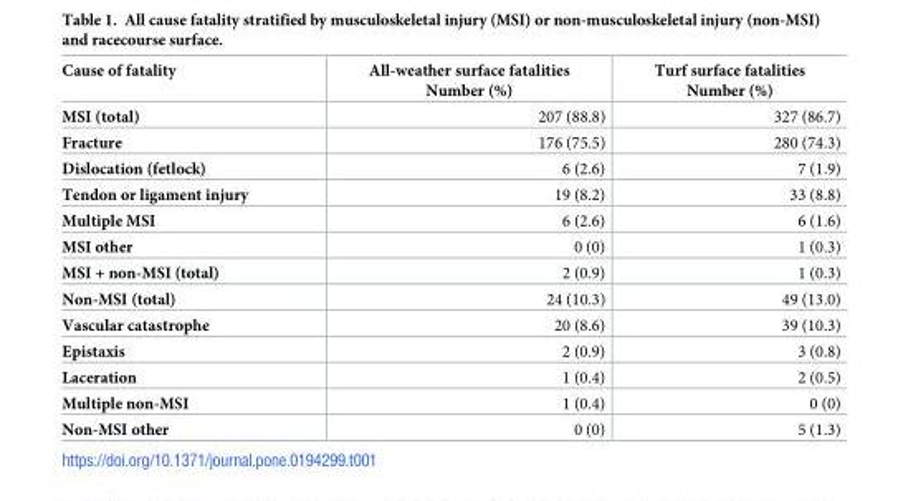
<table><thead><tr><td>Cause of fatality</td><td>All-weather surface fatalities Number (%)</td><td>Turf surface fatalities Number (%)</td></tr></thead><tbody><tr><td>MSI (total)</td><td>207 (88.8)</td><td>327 (86.7)</td></tr><tr><td>Fracture</td><td>176 (75.5)</td><td>280 (74.3)</td></tr><tr><td>Dislocation (fetlock)</td><td>6 (2.6)</td><td>7 (1.9)</td></tr><tr><td>Tendon or ligament injury</td><td>19 (8.2)</td><td>33 (8.8)</td></tr><tr><td>Multiple MSI</td><td>6 (2.6)</td><td>6 (1.6)</td></tr><tr><td>MSI other</td><td>0 (0)</td><td>1 (0.3)</td></tr><tr><td>MSI + non-MSI (total)</td><td>2 (0.9)</td><td>1 (0.3)</td></tr><tr><td>Non-MSI (total)</td><td>24 (10.3)</td><td>49 (13.0)</td></tr><tr><td>Vascular catastrophe</td><td>20 (8.6)</td><td>39 (10.3)</td></tr><tr><td>Epistaxis</td><td>2 (0.9)</td><td>3 (0.8)</td></tr><tr><td>Laceration</td><td>1 (0.4)</td><td>2 (0.5)</td></tr><tr><td>Multiple non-MSI</td><td>1 (0.4)</td><td>0 (0)</td></tr><tr><td>Non-MSI other</td><td>0 (0)</td><td>5 (1.3)</td></tr></tbody></table>